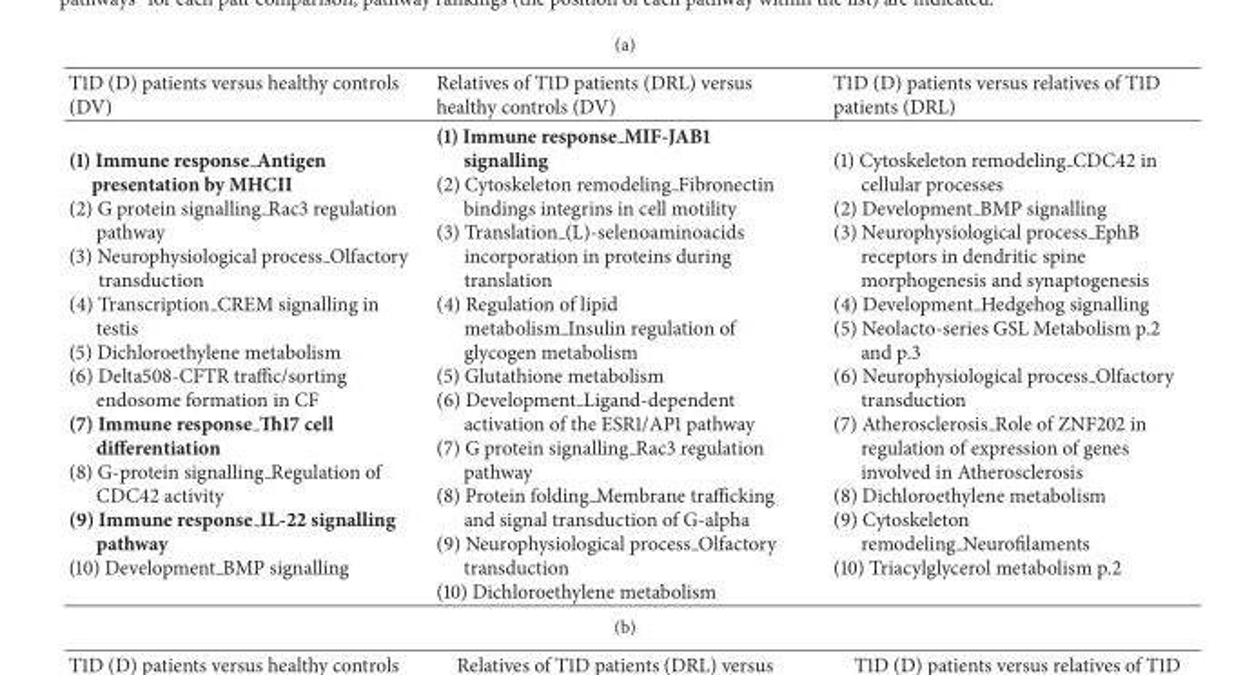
<table><thead><tr><td>T1D (D) patients versus healthy controls (DV)</td><td>Relatives of T1D patients (DRL) versus healthy controls (DV)</td><td>T1D (D) patients versus relatives of T1D patients (DRL)</td></tr></thead><tbody><tr><td>(1) Immune response Antigen presentation by MHCII (2) G protein signalling Rac3 regulation pathway (3) Neurophysiological process Olfactory transduction (4) Transcription CREM signalling in testis (5) Dichloroethylene metabolism (6) Delta508-CFTR traffic/sorting endosome formation in CF (7) Immune response Th17 cell differentiation (8) G-protein signalling Regulation of CDC42 activity (9) Immune response IL-22 signalling pathway (10) Development BMP signalling</td><td>(1) Immune response MIF-JAB1 signalling (2) Cytoskeleton remodeling Fibronectin bindings integrins in cell motility (3) Translation (L)-selenoaminoacids incorporation in proteins during translation (4) Regulation of lipid metabolism Insulin regulation of glycogen metabolism (5) Glutathione metabolism (6) Development Ligand-dependent activation of the ESR1/AP1 pathway (7) G protein signalling Rac3 regulation pathway (8) Protein folding Membrane trafficking and signal transduction of G-alpha (9) Neurophysiological process Olfactory transduction (10) Dichloroethylene metabolism</td><td>(1) Cytoskeleton remodeling CDC42 in cellular processes (2) Development BMP signalling (3) Neurophysiological process EphB receptors in dendritic spine morphogenesis and synaptogenesis (4) Development Hedgehog signalling (5) Neolacto-series GSL Metabolism p.2 and p.3 (6) Neurophysiological process Olfactory transduction (7) Atherosclerosis Role of ZNF202 in regulation of expression of genes involved in Atherosclerosis (8) Dichloroethylene metabolism (9) Cytoskeleton remodeling Neurofilaments (10) Triacylglycerol metabolism p.2</td></tr></tbody></table>